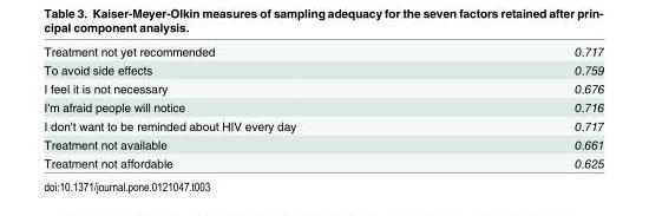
<table><tbody><tr><td>Treatment not yet recommended</td><td>0.717</td></tr><tr><td>To avoid side effects</td><td>0.759</td></tr><tr><td>I feel it is not necessary</td><td>0.676</td></tr><tr><td>I&#x27;m afraid people will notice</td><td>0.716</td></tr><tr><td>I don&#x27;t want to be reminded about HIV every day</td><td>0.717</td></tr><tr><td>Treatment not available</td><td>0.661</td></tr><tr><td>Treatment not affordable</td><td>0.625</td></tr></tbody></table>